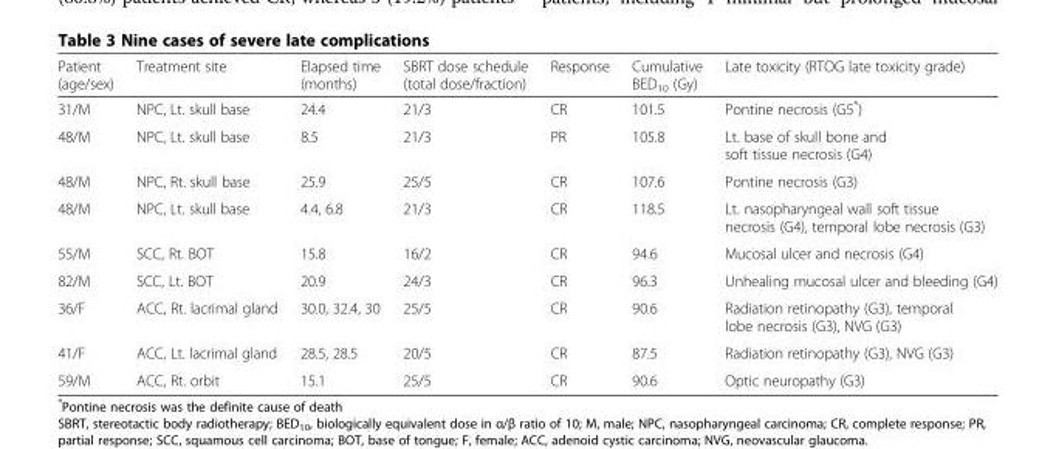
<table><thead><tr><td>Patient (age/sex)</td><td>Treatment site</td><td>Elapsed time (months)</td><td>SBRT dose schedule (total dose/fraction)</td><td>Response</td><td>Cumulative BED<sub>10</sub> (Gy)</td><td>Late toxicity (RTOG late toxicity grade)</td></tr></thead><tbody><tr><td>31/M</td><td>NPC, Lt. skull base</td><td>24.4</td><td>21/3</td><td>CR</td><td>101.5</td><td>Pontine necrosis (G5*)</td></tr><tr><td>48/M</td><td>NPC, Lt. skull base</td><td>8.5</td><td>21/3</td><td>PR</td><td>105.8</td><td>Lt. base of skull bone and soft tissue necrosis (G4)</td></tr><tr><td>48/M</td><td>NPC, Rt. skull base</td><td>25.9</td><td>25/5</td><td>CR</td><td>107.6</td><td>Pontine necrosis (G3)</td></tr><tr><td>48/M</td><td>NPC, Lt. skull base</td><td>4.4, 6.8</td><td>21/3</td><td>CR</td><td>118.5</td><td>Lt. nasopharyngeal wall soft tissue necrosis (G4), temporal lobe necrosis (G3)</td></tr><tr><td>55/M</td><td>SCC, Rt. BOT</td><td>15.8</td><td>16/2</td><td>CR</td><td>94.6</td><td>Mucosal ulcer and necrosis (G4)</td></tr><tr><td>82/M</td><td>SCC, Lt. BOT</td><td>20.9</td><td>24/3</td><td>CR</td><td>96.3</td><td>Unhealing mucosal ulcer and bleeding (G4)</td></tr><tr><td>36/F</td><td>ACC, Rt. lacrimal gland</td><td>30.0, 32.4, 30</td><td>25/5</td><td>CR</td><td>90.6</td><td>Radiation retinopathy (G3), temporal lobe necrosis (G3), NVG (G3)</td></tr><tr><td>41/F</td><td>ACC, Lt. lacrimal gland</td><td>28.5, 28.5</td><td>20/5</td><td>CR</td><td>87.5</td><td>Radiation retinopathy (G3), NVG (G3)</td></tr><tr><td>59/M</td><td>ACC, Rt. orbit</td><td>15.1</td><td>25/5</td><td>CR</td><td>90.6</td><td>Optic neuropathy (G3)</td></tr></tbody></table>